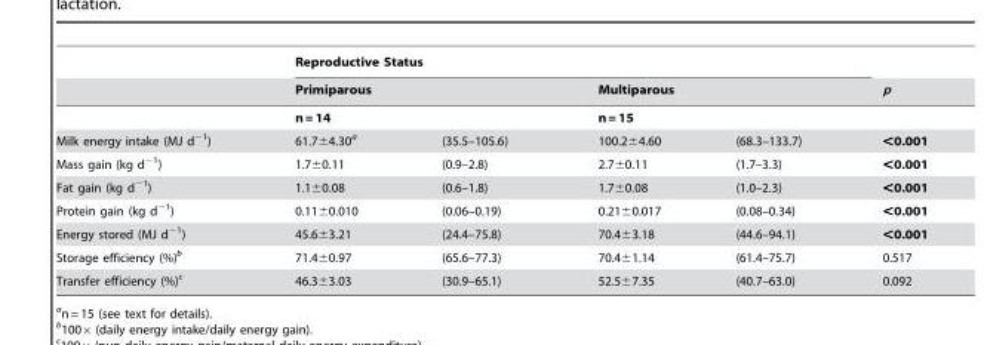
<table><thead><tr><td rowspan="3"></td><td colspan="4">Reproductive Status</td><td rowspan="3">p</td></tr><tr><td colspan="2">Primiparous</td><td colspan="2">Multiparous</td></tr><tr><td>n = 14</td><td></td><td>n = 15</td><td></td></tr></thead><tbody><tr><td>Milk energy intake (MJ d<sup>−1</sup>)</td><td>61.7±4.30a</td><td>(35.5–105.6)</td><td>100.2±4.60</td><td>(68.3–133.7)</td><td>&lt;0.001</td></tr><tr><td>Mass gain (kg d<sup>−1</sup>)</td><td>1.7±0.11</td><td>(0.9–2.8)</td><td>2.7±0.11</td><td>(1.7–3.3)</td><td>&lt;0.001</td></tr><tr><td>Fat gain (kg d<sup>−1</sup>)</td><td>1.1±0.08</td><td>(0.6–1.8)</td><td>1.7±0.08</td><td>(1.0–2.3)</td><td>&lt;0.001</td></tr><tr><td>Protein gain (kg d<sup>−1</sup>)</td><td>0.11±0.010</td><td>(0.06–0.19)</td><td>0.21±0.017</td><td>(0.08–0.34)</td><td>&lt;0.001</td></tr><tr><td>Energy stored (MJ d<sup>−1</sup>)</td><td>45.6±3.21</td><td>(24.4–75.8)</td><td>70.4±3.18</td><td>(44.6–94.1)</td><td>&lt;0.001</td></tr><tr><td>Storage efficiency (%)b</td><td>71.4±0.97</td><td>(65.6–77.3)</td><td>70.4±1.14</td><td>(61.4–75.7)</td><td>0.517</td></tr><tr><td>Transfer efficiency (%)c</td><td>46.3±3.03</td><td>(30.9–65.1)</td><td>52.5±7.35</td><td>(40.7–63.0)</td><td>0.092</td></tr></tbody></table>